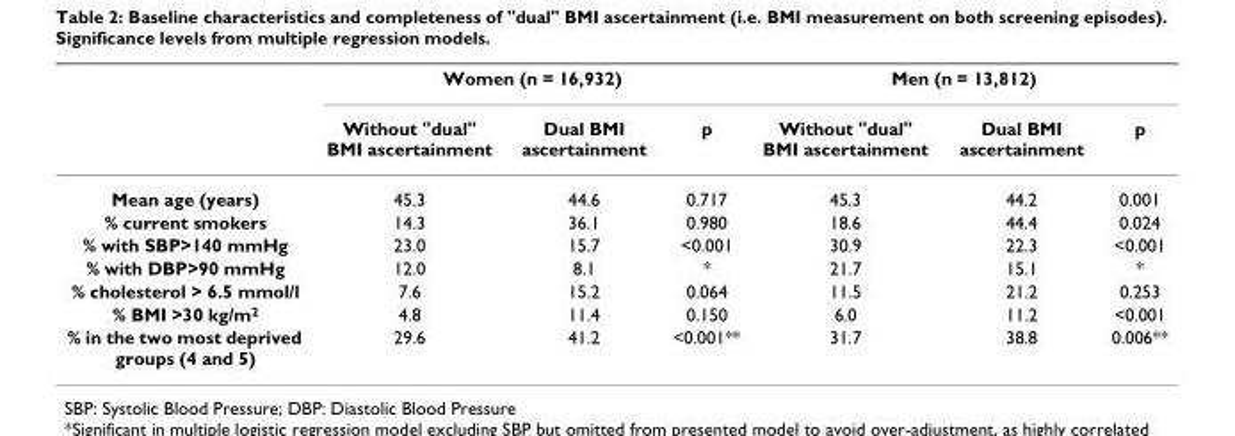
<table><thead><tr><td rowspan="2"></td><td colspan="3">Women (n = 16,932)</td><td colspan="3">Men (n = 13,812)</td></tr><tr><td>Without &quot;dual&quot; BMI ascertainment</td><td>Dual BMI ascertainment</td><td>p</td><td>Without &quot;dual&quot; BMI ascertainment</td><td>Dual BMI ascertainment</td><td>p</td></tr></thead><tbody><tr><td>Mean age (years)</td><td>45.3</td><td>44.6</td><td>0.717</td><td>45.3</td><td>44.2</td><td>0.001</td></tr><tr><td>% current smokers</td><td>14.3</td><td>36.1</td><td>0.980</td><td>18.6</td><td>44.4</td><td>0.024</td></tr><tr><td>% with SBP&gt;140 mmHg</td><td>23.0</td><td>15.7</td><td>&lt;0.001</td><td>30.9</td><td>22.3</td><td>&lt;0.001</td></tr><tr><td>% with DBP&gt;90 mmHg</td><td>12.0</td><td>8.1</td><td>*</td><td>21.7</td><td>15.1</td><td>*</td></tr><tr><td>% cholesterol &gt; 6.5 mmol/l</td><td>7.6</td><td>15.2</td><td>0.064</td><td>11.5</td><td>21.2</td><td>0.253</td></tr><tr><td>% BMI &gt;30 kg/m<sup>2</sup></td><td>4.8</td><td>11.4</td><td>0.150</td><td>6.0</td><td>11.2</td><td>&lt;0.001</td></tr><tr><td>% in the two most deprived groups (4 and 5)</td><td>29.6</td><td>41.2</td><td>&lt;0.001**</td><td>31.7</td><td>38.8</td><td>0.006**</td></tr></tbody></table>